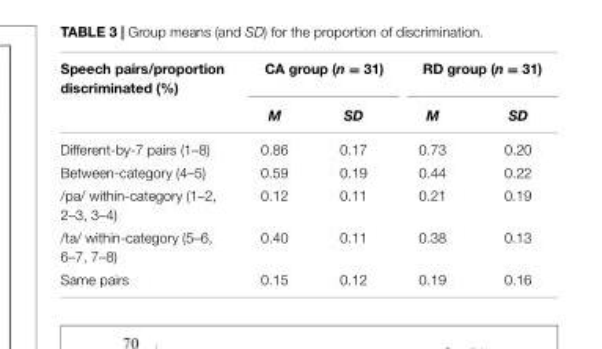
<table><thead><tr><td rowspan="2">Speech pairs/proportion discriminated (%)</td><td colspan="2">CA group (n = 31)</td><td colspan="2">RD group (n = 31)</td></tr><tr><td>M</td><td>SD</td><td>M</td><td>SD</td></tr></thead><tbody><tr><td>Different-by-7 pairs (1–8)</td><td>0.86</td><td>0.17</td><td>0.73</td><td>0.20</td></tr><tr><td>Between-category (4–5)</td><td>0.59</td><td>0.19</td><td>0.44</td><td>0.22</td></tr><tr><td>/pa/ within-category (1–2, 2–3, 3–4)</td><td>0.12</td><td>0.11</td><td>0.21</td><td>0.19</td></tr><tr><td>/ta/ within-category (5–6, 6–7, 7–8)</td><td>0.40</td><td>0.11</td><td>0.38</td><td>0.13</td></tr><tr><td>Same pairs</td><td>0.15</td><td>0.12</td><td>0.19</td><td>0.16</td></tr></tbody></table>